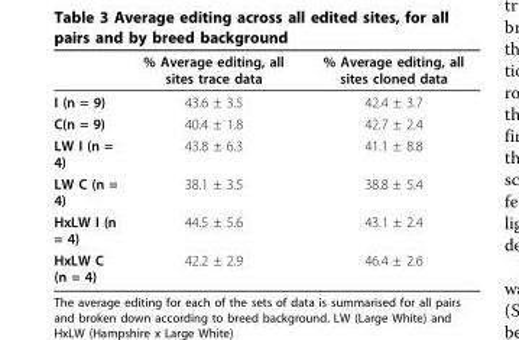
<table><thead><tr><td></td><td>% Average editing, all sites trace data</td><td>% Average editing, all sites cloned data</td></tr></thead><tbody><tr><td>I (n = 9)</td><td>43.6 ± 3.5</td><td>42.4 ± 3.7</td></tr><tr><td>C(n = 9)</td><td>40.4 ± 1.8</td><td>42.7 ± 2.4</td></tr><tr><td>LW I (n = 4)</td><td>43.8 ± 6.3</td><td>41.1 ± 8.8</td></tr><tr><td>LW C (n = 4)</td><td>38.1 ± 3.5</td><td>38.8 ± 5.4</td></tr><tr><td>HxLW I (n = 4)</td><td>44.5 ± 5.6</td><td>43.1 ± 2.4</td></tr><tr><td>HxLW C (n = 4)</td><td>42.2 ± 2.9</td><td>46.4 ± 2.6</td></tr></tbody></table>